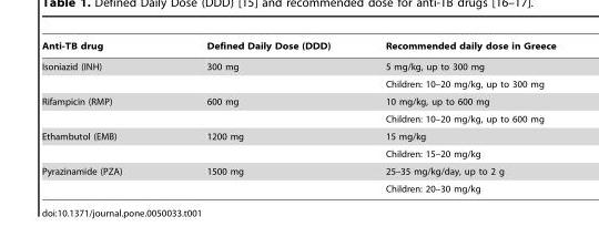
<table><thead><tr><td>Anti-TB drug</td><td>Defined Daily Dose (DDD)</td><td>Recommended daily dose in Greece</td></tr></thead><tbody><tr><td rowspan="2">Isoniazid (INH)</td><td>300 mg</td><td>5 mg/kg, up to 300 mg</td></tr><tr><td></td><td>Children: 10–20 mg/kg, up to 300 mg</td></tr><tr><td rowspan="2">Rifampicin (RMP)</td><td>600 mg</td><td>10 mg/kg, up to 600 mg</td></tr><tr><td></td><td>Children: 10–20 mg/kg, up to 600 mg</td></tr><tr><td rowspan="2">Ethambutol (EMB)</td><td>1200 mg</td><td>15 mg/kg</td></tr><tr><td></td><td>Children: 15–20 mg/kg</td></tr><tr><td rowspan="2">Pyrazinamide (PZA)</td><td>1500 mg</td><td>25–35 mg/kg/day, up to 2 g</td></tr><tr><td></td><td>Children: 20–30 mg/kg</td></tr></tbody></table>